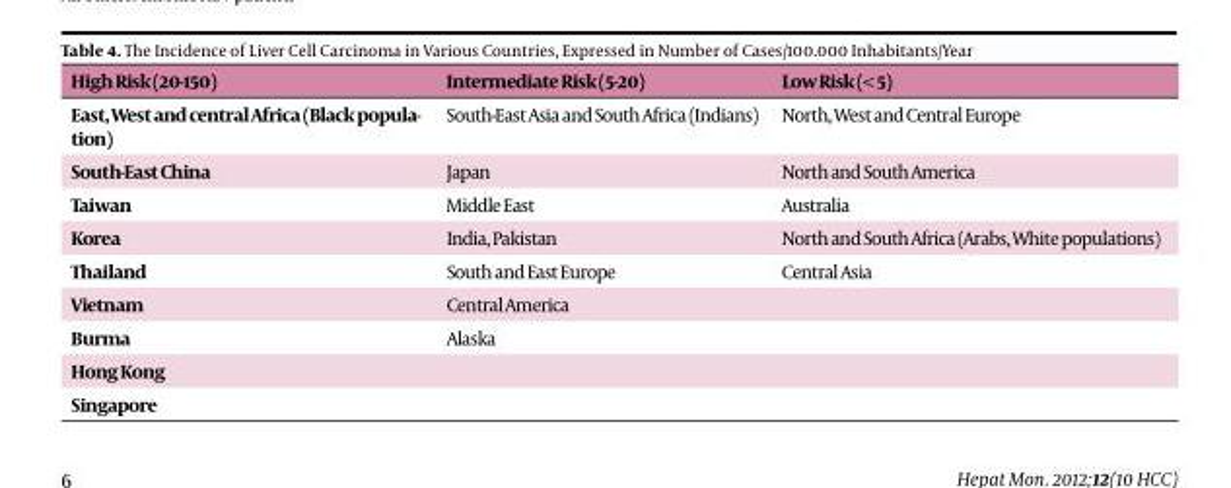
<table><thead><tr><td>High Risk (20-150)</td><td>Intermediate Risk (5-20)</td><td>Low Risk (&lt; 5)</td></tr></thead><tbody><tr><td>East, West and central Africa (Black popula- tion)</td><td>South-East Asia and South Africa (Indians)</td><td>North, West and Central Europe</td></tr><tr><td>South-East China</td><td>Japan</td><td>North and South America</td></tr><tr><td>Taiwan</td><td>Middle East</td><td>Australia</td></tr><tr><td>Korea</td><td>India, Pakistan</td><td>North and South Africa (Arabs, White populations)</td></tr><tr><td>Thailand</td><td>South and East Europe</td><td>Central Asia</td></tr><tr><td>Vietnam</td><td>Central America</td><td></td></tr><tr><td>Burma</td><td>Alaska</td><td></td></tr><tr><td colspan="3">Hong Kong</td></tr><tr><td>Singapore</td><td></td><td></td></tr></tbody></table>